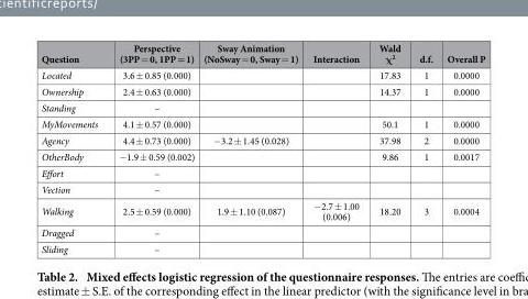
<table><thead><tr><td>Question</td><td>Perspective (3PP = 0, 1PP = 1)</td><td>Sway Animation (NoSway = 0, Sway = 1)</td><td>Interaction</td><td>Wald χ<sup>2</sup></td><td>d.f.</td><td>Overall P</td></tr></thead><tbody><tr><td>Located</td><td>3.6 ± 0.85 (0.000)</td><td></td><td></td><td>17.83</td><td>1</td><td>0.0000</td></tr><tr><td>Ownership</td><td>2.4 ± 0.63 (0.000)</td><td></td><td></td><td>14.37</td><td>1</td><td>0.0000</td></tr><tr><td>Standing</td><td>–</td><td></td><td></td><td></td><td></td><td></td></tr><tr><td>MyMovements</td><td>4.1 ± 0.57 (0.000)</td><td></td><td></td><td>50.1</td><td>1</td><td>0.0000</td></tr><tr><td>Agency</td><td>4.4 ± 0.73 (0.000)</td><td>− 3.2 ± 1.45 (0.028)</td><td></td><td>37.98</td><td>2</td><td>0.0000</td></tr><tr><td>OtherBody</td><td>− 1.9 ± 0.59 (0.002)</td><td></td><td></td><td>9.86</td><td>1</td><td>0.0017</td></tr><tr><td>Effort</td><td>–</td><td></td><td></td><td></td><td></td><td></td></tr><tr><td>Vection</td><td>–</td><td></td><td></td><td></td><td></td><td></td></tr><tr><td>Walking</td><td>2.5 ± 0.59 (0.000)</td><td>1.9 ± 1.10 (0.087)</td><td>− 2.7 ± 1.00 (0.006)</td><td>18.20</td><td>3</td><td>0.0004</td></tr><tr><td>Dragged</td><td>–</td><td></td><td></td><td></td><td></td><td></td></tr><tr><td>Sliding</td><td>–</td><td></td><td></td><td></td><td></td><td></td></tr></tbody></table>